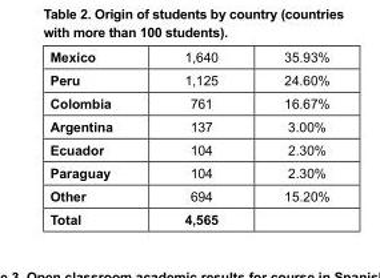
<table><tbody><tr><td>Mexico</td><td>1,640</td><td>35.93%</td></tr><tr><td>Peru</td><td>1,125</td><td>24.60%</td></tr><tr><td>Colombia</td><td>761</td><td>16.67%</td></tr><tr><td>Argentina</td><td>137</td><td>3.00%</td></tr><tr><td>Ecuador</td><td>104</td><td>2.30%</td></tr><tr><td>Paraguay</td><td>104</td><td>2.30%</td></tr><tr><td>Other</td><td>694</td><td>15.20%</td></tr><tr><td>Total</td><td>4,565</td><td></td></tr></tbody></table>